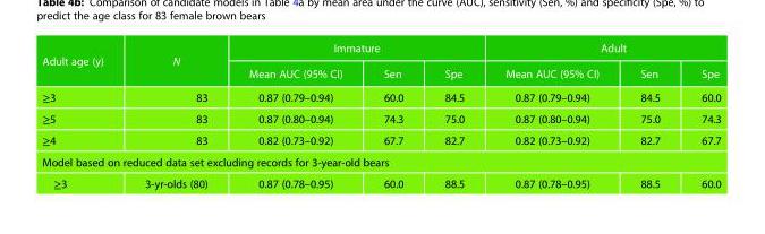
<table><thead><tr><td rowspan="2">Adult age (y)</td><td rowspan="2">N</td><td colspan="3">Immature</td><td colspan="3">Adult</td></tr><tr><td>Mean AUC (95% CI)</td><td>Sen</td><td>Spe</td><td>Mean AUC (95% CI)</td><td>Sen</td><td>Spe</td></tr></thead><tbody><tr><td>≥3</td><td>83</td><td>0.87 (0.79–0.94)</td><td>60.0</td><td>84.5</td><td>0.87 (0.79–0.94)</td><td>84.5</td><td>60.0</td></tr><tr><td>≥5</td><td>83</td><td>0.87 (0.80–0.94)</td><td>74.3</td><td>75.0</td><td>0.87 (0.80–0.94)</td><td>75.0</td><td>74.3</td></tr><tr><td>≥4</td><td>83</td><td>0.82 (0.73–0.92)</td><td>67.7</td><td>82.7</td><td>0.82 (0.73–0.92)</td><td>82.7</td><td>67.7</td></tr><tr><td colspan="8">Model based on reduced data set excluding records for 3-year-old bears</td></tr><tr><td>≥3</td><td>3-yr-olds (80)</td><td>0.87 (0.78–0.95)</td><td>60.0</td><td>88.5</td><td>0.87 (0.78–0.95)</td><td>88.5</td><td>60.0</td></tr></tbody></table>